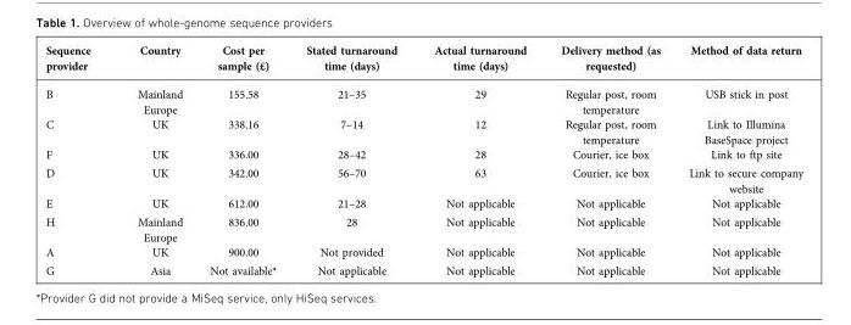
<table><thead><tr><td>Sequence provider</td><td>Country</td><td>Cost per sample (£)</td><td>Stated turnaround time (days)</td><td>Actual turnaround time (days)</td><td>Delivery method (as requested)</td><td>Method of data return</td></tr></thead><tbody><tr><td>B</td><td>Mainland Europe</td><td>155.58</td><td>21–35</td><td>29</td><td>Regular post, room temperature</td><td>USB stick in post</td></tr><tr><td>C</td><td>UK</td><td>338.16</td><td>7–14</td><td>12</td><td>Regular post, room temperature</td><td>Link to Illumina BaseSpace project</td></tr><tr><td>F</td><td>UK</td><td>336.00</td><td>28–42</td><td>28</td><td>Courier, ice box</td><td>Link to ftp site</td></tr><tr><td>D</td><td>UK</td><td>342.00</td><td>56–70</td><td>63</td><td>Courier, ice box</td><td>Link to secure company website</td></tr><tr><td>E</td><td>UK</td><td>612.00</td><td>21–28</td><td>Not applicable</td><td>Not applicable</td><td>Not applicable</td></tr><tr><td>H</td><td>Mainland Europe</td><td>836.00</td><td>28</td><td>Not applicable</td><td>Not applicable</td><td>Not applicable</td></tr><tr><td>A</td><td>UK</td><td>900.00</td><td>Not provided</td><td>Not applicable</td><td>Not applicable</td><td>Not applicable</td></tr><tr><td>G</td><td>Asia</td><td>Not available*</td><td>Not applicable</td><td>Not applicable</td><td>Not applicable</td><td>Not applicable</td></tr></tbody></table>